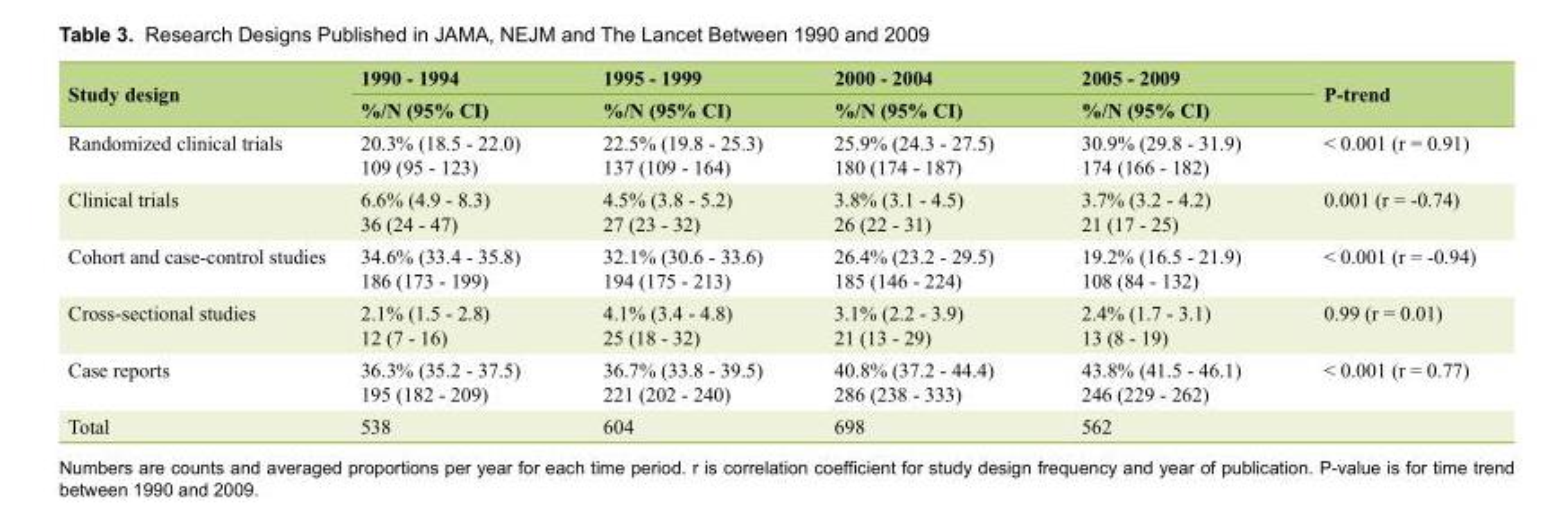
<table><thead><tr><td rowspan="2">Study design</td><td rowspan="2">1990 - 1994 %/N (95% CI)</td><td rowspan="2">1995 - 1999 %/N (95% CI)</td><td rowspan="2">2000 - 2004 %/N (95% CI)</td><td rowspan="2">2005 - 2009 %/N (95% CI)</td><td rowspan="2">P-trend</td></tr><tr></tr></thead><tbody><tr><td>Randomized clinical trials</td><td>20.3% (18.5 - 22.0) 109 (95 - 123)</td><td>22.5% (19.8 - 25.3) 137 (109 - 164)</td><td>25.9% (24.3 - 27.5) 180 (174 - 187)</td><td>30.9% (29.8 - 31.9) 174 (166 - 182)</td><td>&lt; 0.001 (r = 0.91)</td></tr><tr><td>Clinical trials</td><td>6.6% (4.9 - 8.3) 36 (24 - 47)</td><td>4.5% (3.8 - 5.2) 27 (23 - 32)</td><td>3.8% (3.1 - 4.5) 26 (22 - 31)</td><td>3.7% (3.2 - 4.2) 21 (17 - 25)</td><td>0.001 (r = -0.74)</td></tr><tr><td>Cohort and case-control studies</td><td>34.6% (33.4 - 35.8) 186 (173 - 199)</td><td>32.1% (30.6 - 33.6) 194 (175 - 213)</td><td>26.4% (23.2 - 29.5) 185 (146 - 224)</td><td>19.2% (16.5 - 21.9) 108 (84 - 132)</td><td>&lt; 0.001 (r = -0.94)</td></tr><tr><td>Cross-sectional studies</td><td>2.1% (1.5 - 2.8) 12 (7 - 16)</td><td>4.1% (3.4 - 4.8) 25 (18 - 32)</td><td>3.1% (2.2 - 3.9) 21 (13 - 29)</td><td>2.4% (1.7 - 3.1) 13 (8 - 19)</td><td>0.99 (r = 0.01)</td></tr><tr><td>Case reports</td><td>36.3% (35.2 - 37.5) 195 (182 - 209)</td><td>36.7% (33.8 - 39.5) 221 (202 - 240)</td><td>40.8% (37.2 - 44.4) 286 (238 - 333)</td><td>43.8% (41.5 - 46.1) 246 (229 - 262)</td><td>&lt; 0.001 (r = 0.77)</td></tr><tr><td>Total</td><td>538</td><td>604</td><td>698</td><td>562</td><td></td></tr></tbody></table>